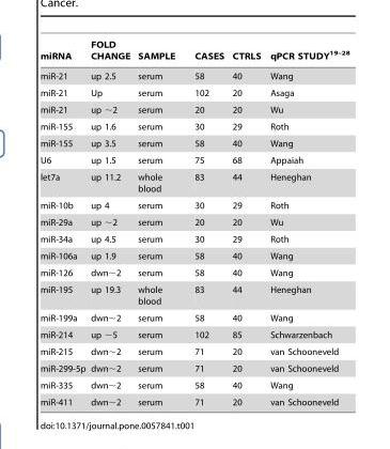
<table><thead><tr><td>miRNA</td><td>FOLD CHANGE</td><td>SAMPLE</td><td>CASES</td><td>CTRLS</td><td>qPCR STUDY<sup>19–28</sup></td></tr></thead><tbody><tr><td>miR-21</td><td>up 2.5</td><td>serum</td><td>58</td><td>40</td><td>Wang</td></tr><tr><td>miR-21</td><td>Up</td><td>serum</td><td>102</td><td>20</td><td>Asaga</td></tr><tr><td>miR-21</td><td>up ∼2</td><td>serum</td><td>20</td><td>20</td><td>Wu</td></tr><tr><td>miR-155</td><td>up 1.6</td><td>serum</td><td>30</td><td>29</td><td>Roth</td></tr><tr><td>miR-155</td><td>up 3.5</td><td>serum</td><td>58</td><td>40</td><td>Wang</td></tr><tr><td>U6</td><td>up 1.5</td><td>serum</td><td>75</td><td>68</td><td>Appaiah</td></tr><tr><td>let7a</td><td>up 11.2</td><td>whole blood</td><td>83</td><td>44</td><td>Heneghan</td></tr><tr><td>miR-10b</td><td>up 4</td><td>serum</td><td>30</td><td>29</td><td>Roth</td></tr><tr><td>miR-29a</td><td>up ∼2</td><td>serum</td><td>20</td><td>20</td><td>Wu</td></tr><tr><td>miR-34a</td><td>up 4.5</td><td>serum</td><td>30</td><td>29</td><td>Roth</td></tr><tr><td>miR-106a</td><td>up 1.9</td><td>serum</td><td>58</td><td>40</td><td>Wang</td></tr><tr><td>miR-126</td><td>dwn∼2</td><td>serum</td><td>58</td><td>40</td><td>Wang</td></tr><tr><td>miR-195</td><td>up 19.3</td><td>whole blood</td><td>83</td><td>44</td><td>Heneghan</td></tr><tr><td>miR-199a</td><td>dwn∼2</td><td>serum</td><td>58</td><td>40</td><td>Wang</td></tr><tr><td>miR-214</td><td>up ∼5</td><td>serum</td><td>102</td><td>85</td><td>Schwarzenbach</td></tr><tr><td>miR-215</td><td>dwn∼2</td><td>serum</td><td>71</td><td>20</td><td>van Schooneveld</td></tr><tr><td>miR-299-5p</td><td>dwn∼2</td><td>serum</td><td>71</td><td>20</td><td>van Schooneveld</td></tr><tr><td>miR-335</td><td>dwn∼2</td><td>serum</td><td>58</td><td>40</td><td>Wang</td></tr><tr><td>miR-411</td><td>dwn∼2</td><td>serum</td><td>71</td><td>20</td><td>van Schooneveld</td></tr></tbody></table>